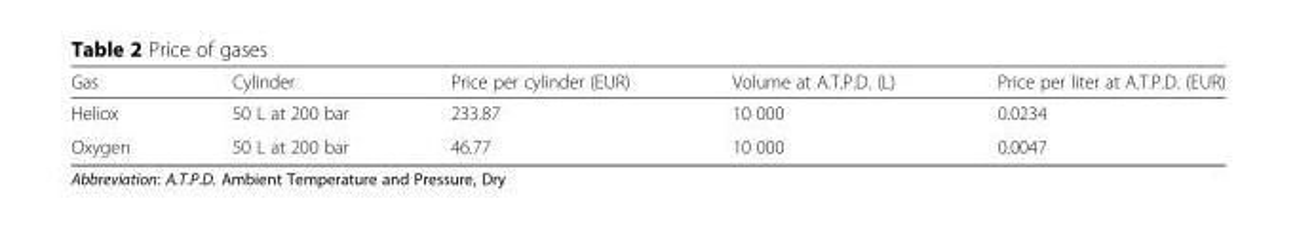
<table><thead><tr><td>Gas</td><td>Cylinder</td><td>Price per cylinder (EUR)</td><td>Volume at A.T.P.D. (L)</td><td>Price per liter at A.T.P.D. (EUR)</td></tr></thead><tbody><tr><td>Heliox</td><td>50 L at 200 bar</td><td>233.87</td><td>10 000</td><td>0.0234</td></tr><tr><td>Oxygen</td><td>50 L at 200 bar</td><td>46.77</td><td>10 000</td><td>0.0047</td></tr></tbody></table>